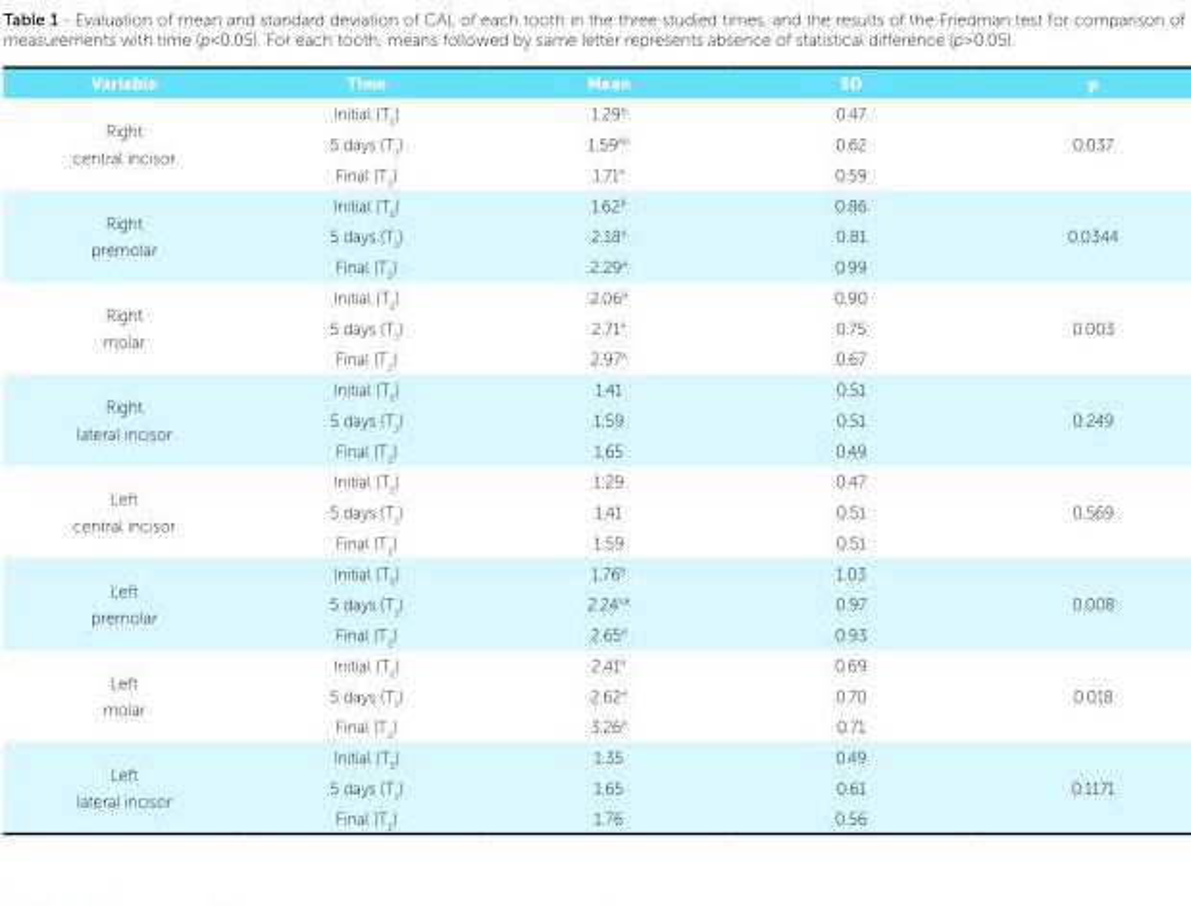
<table><tbody><tr><td>Variable</td><td>Time</td><td>Mean</td><td>SD</td><td>p</td></tr><tr><td rowspan="3">Right central incisor</td><td>Initial (T<sub>0</sub>)</td><td>1.29<sup>B</sup></td><td>0.47</td><td rowspan="3">0.037</td></tr><tr><td>5 days (T<sub>1</sub>)</td><td>1.59<sup>AB</sup></td><td>0.62</td></tr><tr><td>Final (T<sub>2</sub>)</td><td>1.71<sup>A</sup></td><td>0.59</td></tr><tr><td rowspan="3">Right premolar</td><td>Initial (T<sub>0</sub>)</td><td>1.62<sup>B</sup></td><td>0.86</td><td rowspan="3">0.0344</td></tr><tr><td>5 days (T<sub>1</sub>)</td><td>2.18<sup>A</sup></td><td>0.81</td></tr><tr><td>Final (T<sub>2</sub>)</td><td>2.29<sup>A</sup></td><td>0.99</td></tr><tr><td rowspan="3">Right molar</td><td>Initial (T<sub>0</sub>)</td><td>2.06<sup>B</sup></td><td>0.90</td><td rowspan="3">0.003</td></tr><tr><td>5 days (T<sub>1</sub>)</td><td>2.71<sup>A</sup></td><td>0.75</td></tr><tr><td>Final (T<sub>2</sub>)</td><td>2.97<sup>A</sup></td><td>0.67</td></tr><tr><td rowspan="3">Right lateral incisor</td><td>Initial (T<sub>0</sub>)</td><td>1.41</td><td>0.51</td><td rowspan="3">0.249</td></tr><tr><td>5 days (T<sub>1</sub>)</td><td>1.59</td><td>0.51</td></tr><tr><td>Final (T<sub>2</sub>)</td><td>1.65</td><td>0.49</td></tr><tr><td rowspan="3">Left central incisor</td><td>Initial (T<sub>0</sub>)</td><td>1.29</td><td>0.47</td><td rowspan="3">0.569</td></tr><tr><td>5 days (T<sub>1</sub>)</td><td>1.41</td><td>0.51</td></tr><tr><td>Final (T<sub>2</sub>)</td><td>1.59</td><td>0.51</td></tr><tr><td rowspan="3">Left premolar</td><td>Initial (T<sub>0</sub>)</td><td>1.76<sup>B</sup></td><td>1.03</td><td rowspan="3">0.008</td></tr><tr><td>5 days (T<sub>1</sub>)</td><td>2.24<sup>AB</sup></td><td>0.97</td></tr><tr><td>Final (T<sub>2</sub>)</td><td>2.65<sup>A</sup></td><td>0.93</td></tr><tr><td rowspan="3">Left molar</td><td>Initial (T<sub>0</sub>)</td><td>2.41<sup>B</sup></td><td>0.69</td><td rowspan="3">0.018</td></tr><tr><td>5 days (T<sub>1</sub>)</td><td>2.62<sup>A</sup></td><td>0.70</td></tr><tr><td>Final (T<sub>2</sub>)</td><td>3.26<sup>A</sup></td><td>0.71</td></tr><tr><td rowspan="3">Left lateral incisor</td><td>Initial (T<sub>0</sub>)</td><td>1.35</td><td>0.49</td><td rowspan="3">0.1171</td></tr><tr><td>5 days (T<sub>1</sub>)</td><td>1.65</td><td>0.61</td></tr><tr><td>Final (T<sub>2</sub>)</td><td>1.76</td><td>0.56</td></tr></tbody></table>